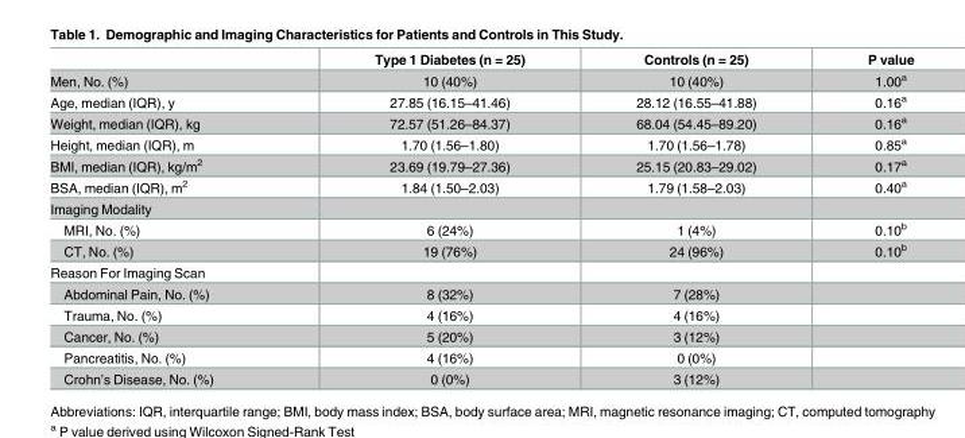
<table><thead><tr><td></td><td>Type 1 Diabetes (n = 25)</td><td>Controls (n = 25)</td><td>P value</td></tr></thead><tbody><tr><td>Men, No. (%)</td><td>10 (40%)</td><td>10 (40%)</td><td>1.00<sup>a</sup></td></tr><tr><td>Age, median (IQR), y</td><td>27.85 (16.15–41.46)</td><td>28.12 (16.55–41.88)</td><td>0.16<sup>a</sup></td></tr><tr><td>Weight, median (IQR), kg</td><td>72.57 (51.26–84.37)</td><td>68.04 (54.45–89.20)</td><td>0.16<sup>a</sup></td></tr><tr><td>Height, median (IQR), m</td><td>1.70 (1.56–1.80)</td><td>1.70 (1.56–1.78)</td><td>0.85<sup>a</sup></td></tr><tr><td>BMI, median (IQR), kg/m<sup>2</sup></td><td>23.69 (19.79–27.36)</td><td>25.15 (20.83–29.02)</td><td>0.17<sup>a</sup></td></tr><tr><td>BSA, median (IQR), m<sup>2</sup></td><td>1.84 (1.50–2.03)</td><td>1.79 (1.58–2.03)</td><td>0.40<sup>a</sup></td></tr><tr><td colspan="4">Imaging Modality</td></tr><tr><td>MRI, No. (%)</td><td>6 (24%)</td><td>1 (4%)</td><td>0.10<sup>b</sup></td></tr><tr><td>CT, No. (%)</td><td>19 (76%)</td><td>24 (96%)</td><td>0.10<sup>b</sup></td></tr><tr><td colspan="4">Reason For Imaging Scan</td></tr><tr><td>Abdominal Pain, No. (%)</td><td>8 (32%)</td><td>7 (28%)</td><td></td></tr><tr><td>Trauma, No. (%)</td><td>4 (16%)</td><td>4 (16%)</td><td></td></tr><tr><td>Cancer, No. (%)</td><td>5 (20%)</td><td>3 (12%)</td><td></td></tr><tr><td>Pancreatitis, No. (%)</td><td>4 (16%)</td><td>0 (0%)</td><td></td></tr><tr><td>Crohn’s Disease, No. (%)</td><td>0 (0%)</td><td>3 (12%)</td><td></td></tr></tbody></table>